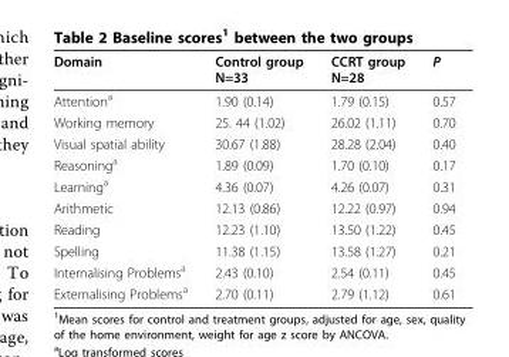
<table><thead><tr><td>Domain</td><td>Control group N=33</td><td>CCRT group N=28</td><td>P</td></tr></thead><tbody><tr><td>Attention<sup>a</sup></td><td>1.90 (0.14)</td><td>1.79 (0.15)</td><td>0.57</td></tr><tr><td>Working memory</td><td>25. 44 (1.02)</td><td>26.02 (1.11)</td><td>0.70</td></tr><tr><td>Visual spatial ability</td><td>30.67 (1.88)</td><td>28.28 (2.04)</td><td>0.40</td></tr><tr><td>Reasoning<sup>a</sup></td><td>1.89 (0.09)</td><td>1.70 (0.10)</td><td>0.17</td></tr><tr><td>Learning<sup>a</sup></td><td>4.36 (0.07)</td><td>4.26 (0.07)</td><td>0.31</td></tr><tr><td>Arithmetic</td><td>12.13 (0.86)</td><td>12.22 (0.97)</td><td>0.94</td></tr><tr><td>Reading</td><td>12.23 (1.10)</td><td>13.50 (1.22)</td><td>0.45</td></tr><tr><td>Spelling</td><td>11.38 (1.15)</td><td>13.58 (1.27)</td><td>0.21</td></tr><tr><td>Internalising Problems<sup>a</sup></td><td>2.43 (0.10)</td><td>2.54 (0.11)</td><td>0.45</td></tr><tr><td>Externalising Problems<sup>a</sup></td><td>2.70 (0.11)</td><td>2.79 (1.12)</td><td>0.61</td></tr></tbody></table>